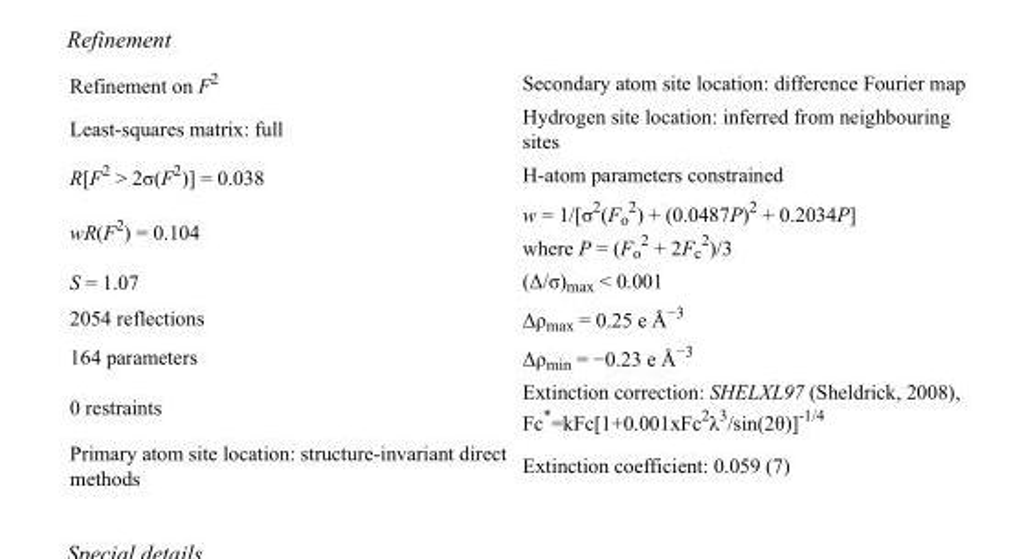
<table><tbody><tr><td>Refinement on F<sup>2</sup></td><td>Secondary atom site location: difference Fourier map</td></tr><tr><td>Least-squares matrix: full</td><td>Hydrogen site location: inferred from neighbouring sites</td></tr><tr><td>R[F<sup>2</sup> &gt; 2σ(F<sup>2</sup>)] = 0.038</td><td>H-atom parameters constrained</td></tr><tr><td>wR(F<sup>2</sup>) = 0.104</td><td>w = 1/[σ<sup>2</sup>(F<sub>o</sub> <sup>2</sup>) + (0.0487P)<sup>2</sup> + 0.2034P] where P = (F<sub>o</sub> <sup>2</sup> + 2F<sub>c</sub> <sup>2</sup>)/3</td></tr><tr><td>S = 1.07</td><td>(Δ/σ)<sub>max</sub> &lt; 0.001</td></tr><tr><td>2054 reflections</td><td>Δρ<sub>max</sub> = 0.25 e Å<sup>−3</sup></td></tr><tr><td>164 parameters</td><td>Δρ<sub>min</sub> = −0.23 e Å<sup>−3</sup></td></tr><tr><td>0 restraints</td><td>Extinction correction: SHELXL97 (Sheldrick, 2008), Fc*=kFc[1+0.001xFc<sup>2</sup>λ<sup>3</sup>/sin(2θ)]<sup>-1/4</sup></td></tr><tr><td>Primary atom site location: structure-invariant direct methods</td><td>Extinction coefficient: 0.059 (7)</td></tr></tbody></table>